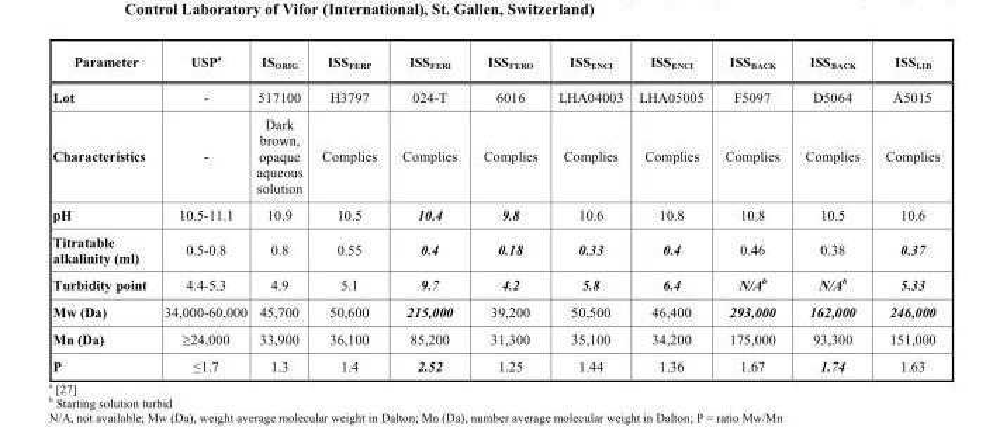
<table><thead><tr><td>Parameter</td><td>USP<sup>a</sup></td><td>IS<sub>ORIG</sub></td><td>ISS<sub>FERP</sub></td><td>ISS<sub>FERI</sub></td><td>ISS<sub>FERO</sub></td><td>ISS<sub>ENCI</sub></td><td>ISS<sub>ENCI</sub></td><td>ISS<sub>BACK</sub></td><td>ISS<sub>BACK</sub></td><td>ISS<sub>LIB</sub></td></tr></thead><tbody><tr><td>Lot</td><td>-</td><td>517100</td><td>H3797</td><td>024-T</td><td>6016</td><td>LHA04003</td><td>LHA05005</td><td>F5097</td><td>D5064</td><td>A5015</td></tr><tr><td>Characteristics</td><td>-</td><td>Dark brown, opaque aqueous solution</td><td>Complies</td><td>Complies</td><td>Complies</td><td>Complies</td><td>Complies</td><td>Complies</td><td>Complies</td><td>Complies</td></tr><tr><td>pH</td><td>10.5-11.1</td><td>10.9</td><td>10.5</td><td>10.4</td><td>9.8</td><td>10.6</td><td>10.8</td><td>10.8</td><td>10.5</td><td>10.6</td></tr><tr><td>Titratable alkalinity (ml)</td><td>0.5-0.8</td><td>0.8</td><td>0.55</td><td>0.4</td><td>0.18</td><td>0.33</td><td>0.4</td><td>0.46</td><td>0.38</td><td>0.37</td></tr><tr><td>Turbidity point</td><td>4.4-5.3</td><td>4.9</td><td>5.1</td><td>9.7</td><td>4.2</td><td>5.8</td><td>6.4</td><td>N/A<sup>b</sup></td><td>N/A<sup>b</sup></td><td>5.33</td></tr><tr><td>Mw (Da)</td><td>34,000-60,000</td><td>45,700</td><td>50,600</td><td>215,000</td><td>39,200</td><td>50,500</td><td>46,400</td><td>293,000</td><td>162,000</td><td>246,000</td></tr><tr><td>Mn (Da)</td><td>≥24,000</td><td>33,900</td><td>36,100</td><td>85,200</td><td>31,300</td><td>35,100</td><td>34,200</td><td>175,000</td><td>93,300</td><td>151,000</td></tr><tr><td>P</td><td>≤1.7</td><td>1.3</td><td>1.4</td><td>2.52</td><td>1.25</td><td>1.44</td><td>1.36</td><td>1.67</td><td>1.74</td><td>1.63</td></tr></tbody></table>